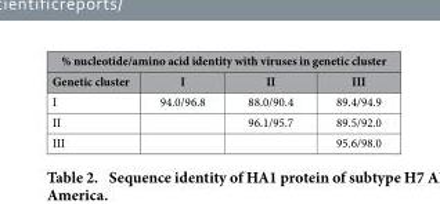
<table><thead><tr><td colspan="4">% nucleotide/amino acid identity with viruses in genetic cluster</td></tr><tr><td>Genetic cluster</td><td>I</td><td>II</td><td>III</td></tr></thead><tbody><tr><td>I</td><td>94.0/96.8</td><td>88.0/90.4</td><td>89.4/94.9</td></tr><tr><td>II</td><td></td><td>96.1/95.7</td><td>89.5/92.0</td></tr><tr><td>III</td><td></td><td></td><td>95.6/98.0</td></tr></tbody></table>